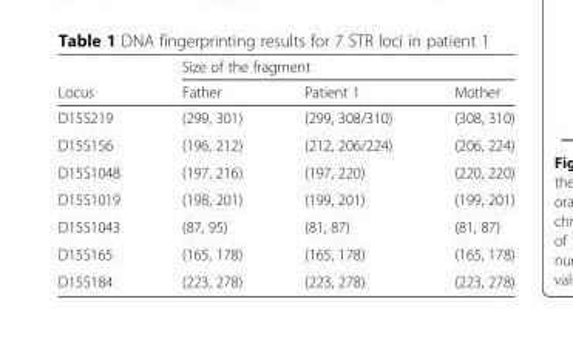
<table><thead><tr><td rowspan="2">Locus</td><td colspan="3">Size of the fragment</td></tr><tr><td>Father</td><td>Patient 1</td><td>Mother</td></tr></thead><tbody><tr><td>D15S219</td><td>(299, 301)</td><td>(299, 308/310)</td><td>(308, 310)</td></tr><tr><td>D15S156</td><td>(196, 212)</td><td>(212, 206/224)</td><td>(206, 224)</td></tr><tr><td>D15S1048</td><td>(197, 216)</td><td>(197, 220)</td><td>(220, 220)</td></tr><tr><td>D15S1019</td><td>(198, 201)</td><td>(199, 201)</td><td>(199, 201)</td></tr><tr><td>D15S1043</td><td>(87, 95)</td><td>(81, 87)</td><td>(81, 87)</td></tr><tr><td>D15S165</td><td>(165, 178)</td><td>(165, 178)</td><td>(165, 178)</td></tr><tr><td>D15S184</td><td>(223, 278)</td><td>(223, 278)</td><td>(223, 278)</td></tr></tbody></table>